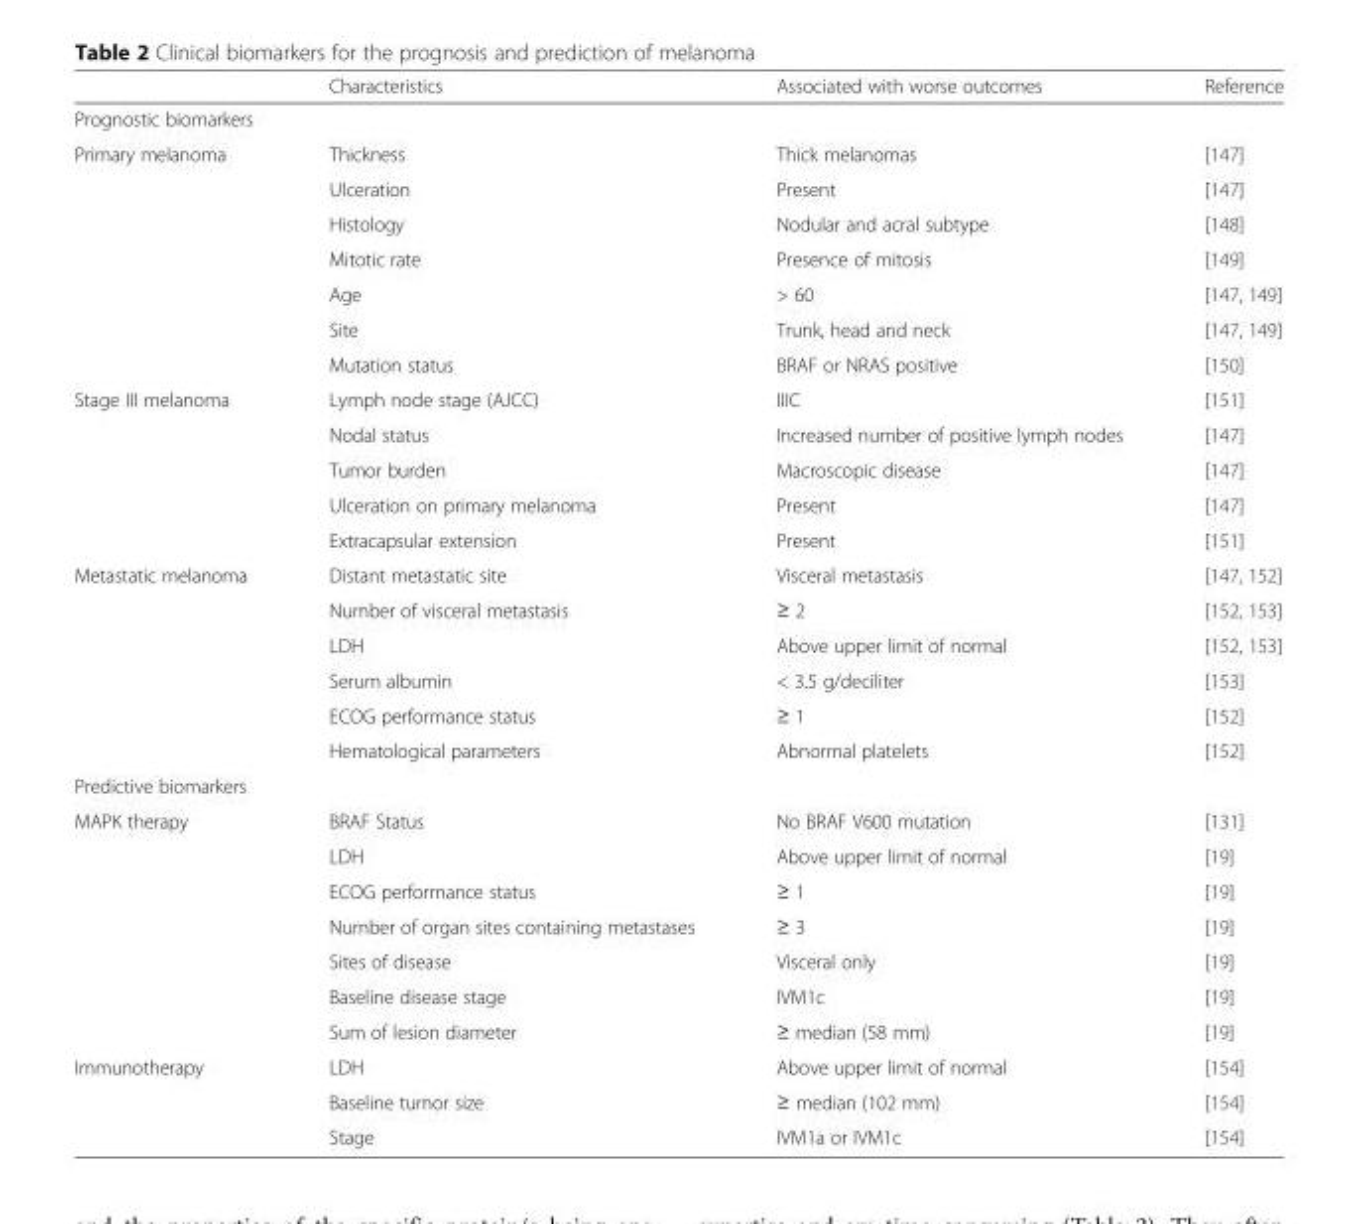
<table><thead><tr><td></td><td>Characteristics</td><td>Associated with worse outcomes</td><td>Reference</td></tr></thead><tbody><tr><td colspan="4">Prognostic biomarkers</td></tr><tr><td rowspan="7">Primary melanoma</td><td>Thickness</td><td>Thick melanomas</td><td>[147]</td></tr><tr><td>Ulceration</td><td>Present</td><td>[147]</td></tr><tr><td>Histology</td><td>Nodular and acral subtype</td><td>[148]</td></tr><tr><td>Mitotic rate</td><td>Presence of mitosis</td><td>[149]</td></tr><tr><td>Age</td><td>&gt; 60</td><td>[147, 149]</td></tr><tr><td>Site</td><td>Trunk, head and neck</td><td>[147, 149]</td></tr><tr><td>Mutation status</td><td>BRAF or NRAS positive</td><td>[150]</td></tr><tr><td rowspan="5">Stage III melanoma</td><td>Lymph node stage (AJCC)</td><td>IIIC</td><td>[151]</td></tr><tr><td>Nodal status</td><td>Increased number of positive lymph nodes</td><td>[147]</td></tr><tr><td>Tumor burden</td><td>Macroscopic disease</td><td>[147]</td></tr><tr><td>Ulceration on primary melanoma</td><td>Present</td><td>[147]</td></tr><tr><td>Extracapsular extension</td><td>Present</td><td>[151]</td></tr><tr><td rowspan="6">Metastatic melanoma</td><td>Distant metastatic site</td><td>Visceral metastasis</td><td>[147, 152]</td></tr><tr><td>Number of visceral metastasis</td><td>≥ 2</td><td>[152, 153]</td></tr><tr><td>LDH</td><td>Above upper limit of normal</td><td>[152, 153]</td></tr><tr><td>Serum albumin</td><td>&lt; 3.5 g/deciliter</td><td>[153]</td></tr><tr><td>ECOG performance status</td><td>≥ 1</td><td>[152]</td></tr><tr><td>Hematological parameters</td><td>Abnormal platelets</td><td>[152]</td></tr><tr><td colspan="4">Predictive biomarkers</td></tr><tr><td rowspan="7">MAPK therapy</td><td>BRAF Status</td><td>No BRAF V600 mutation</td><td>[131]</td></tr><tr><td>LDH</td><td>Above upper limit of normal</td><td>[19]</td></tr><tr><td>ECOG performance status</td><td>≥ 1</td><td>[19]</td></tr><tr><td>Number of organ sites containing metastases</td><td>≥ 3</td><td>[19]</td></tr><tr><td>Sites of disease</td><td>Visceral only</td><td>[19]</td></tr><tr><td>Baseline disease stage</td><td>IVM1c</td><td>[19]</td></tr><tr><td>Sum of lesion diameter</td><td>≥ median (58 mm)</td><td>[19]</td></tr><tr><td rowspan="3">Immunotherapy</td><td>LDH</td><td>Above upper limit of normal</td><td>[154]</td></tr><tr><td>Baseline tumor size</td><td>≥ median (102 mm)</td><td>[154]</td></tr><tr><td>Stage</td><td>IVM1a or IVM1c</td><td>[154]</td></tr></tbody></table>